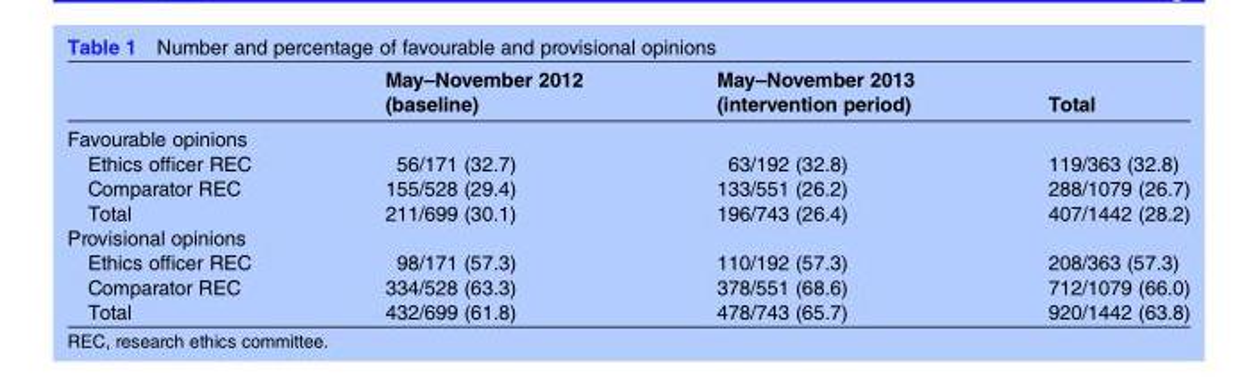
<table><thead><tr><td></td><td>May–November 2012 (baseline)</td><td>May–November 2013 (intervention period)</td><td>Total</td></tr></thead><tbody><tr><td colspan="4">Favourable opinions</td></tr><tr><td>Ethics officer REC</td><td>56/171 (32.7)</td><td>63/192 (32.8)</td><td>119/363 (32.8)</td></tr><tr><td>Comparator REC</td><td>155/528 (29.4)</td><td>133/551 (26.2)</td><td>288/1079 (26.7)</td></tr><tr><td>Total</td><td>211/699 (30.1)</td><td>196/743 (26.4)</td><td>407/1442 (28.2)</td></tr><tr><td colspan="4">Provisional opinions</td></tr><tr><td>Ethics officer REC</td><td>98/171 (57.3)</td><td>110/192 (57.3)</td><td>208/363 (57.3)</td></tr><tr><td>Comparator REC</td><td>334/528 (63.3)</td><td>378/551 (68.6)</td><td>712/1079 (66.0)</td></tr><tr><td>Total</td><td>432/699 (61.8)</td><td>478/743 (65.7)</td><td>920/1442 (63.8)</td></tr></tbody></table>